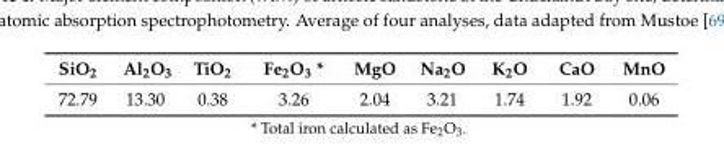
<table><thead><tr><td>SiO<sub>2</sub></td><td>Al<sub>2</sub>O<sub>3</sub></td><td>TiO<sub>2</sub></td><td>Fe<sub>2</sub>O<sub>3</sub> *</td><td>MgO</td><td>Na<sub>2</sub>O</td><td>K<sub>2</sub>O</td><td>CaO</td><td>MnO</td></tr></thead><tbody><tr><td>72.79</td><td>13.30</td><td>0.38</td><td>3.26</td><td>2.04</td><td>3.21</td><td>1.74</td><td>1.92</td><td>0.06</td></tr></tbody></table>